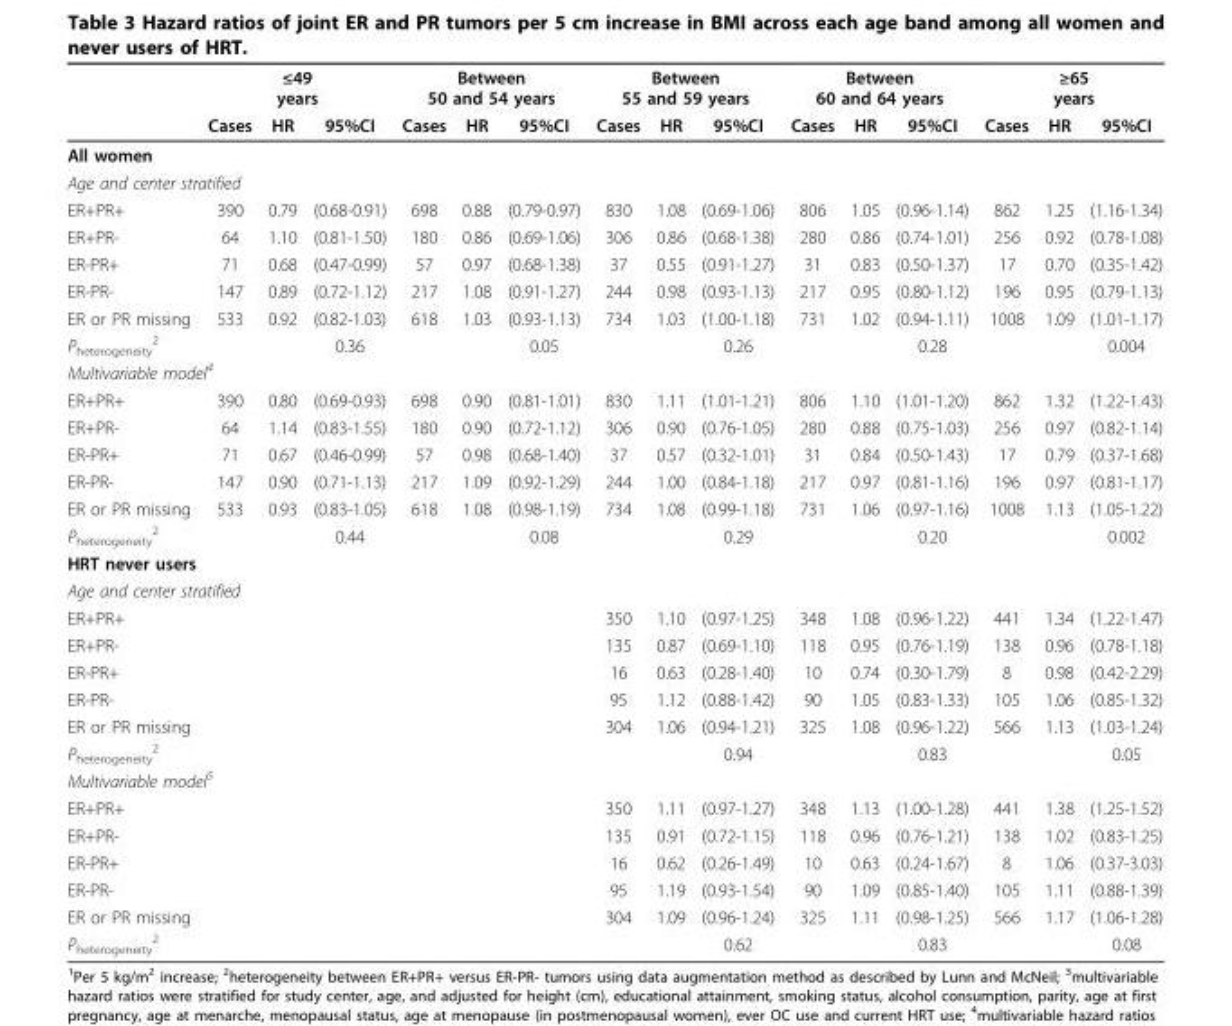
<table><thead><tr><td rowspan="2"></td><td colspan="3">≤49 years</td><td colspan="3">Between 50 and 54 years</td><td colspan="3">Between 55 and 59 years</td><td colspan="3">Between 60 and 64 years</td><td colspan="3">≥65 years</td></tr><tr><td>Cases</td><td>HR</td><td>95%CI</td><td>Cases</td><td>HR</td><td>95%CI</td><td>Cases</td><td>HR</td><td>95%CI</td><td>Cases</td><td>HR</td><td>95%CI</td><td>Cases</td><td>HR</td><td>95%CI</td></tr></thead><tbody><tr><td colspan="16">All women</td></tr><tr><td colspan="16">Age and center stratified</td></tr><tr><td>ER+PR+</td><td>390</td><td>0.79</td><td>(0.68-0.91)</td><td>698</td><td>0.88</td><td>(0.79-0.97)</td><td>830</td><td>1.08</td><td>(0.69-1.06)</td><td>806</td><td>1.05</td><td>(0.96-1.14)</td><td>862</td><td>1.25</td><td>(1.16-1.34)</td></tr><tr><td>ER+PR-</td><td>64</td><td>1.10</td><td>(0.81-1.50)</td><td>180</td><td>0.86</td><td>(0.69-1.06)</td><td>306</td><td>0.86</td><td>(0.68-1.38)</td><td>280</td><td>0.86</td><td>(0.74-1.01)</td><td>256</td><td>0.92</td><td>(0.78-1.08)</td></tr><tr><td>ER-PR+</td><td>71</td><td>0.68</td><td>(0.47-0.99)</td><td>57</td><td>0.97</td><td>(0.68-1.38)</td><td>37</td><td>0.55</td><td>(0.91-1.27)</td><td>31</td><td>0.83</td><td>(0.50-1.37)</td><td>17</td><td>0.70</td><td>(0.35-1.42)</td></tr><tr><td>ER-PR-</td><td>147</td><td>0.89</td><td>(0.72-1.12)</td><td>217</td><td>1.08</td><td>(0.91-1.27)</td><td>244</td><td>0.98</td><td>(0.93-1.13)</td><td>217</td><td>0.95</td><td>(0.80-1.12)</td><td>196</td><td>0.95</td><td>(0.79-1.13)</td></tr><tr><td>ER or PR missing</td><td>533</td><td>0.92</td><td>(0.82-1.03)</td><td>618</td><td>1.03</td><td>(0.93-1.13)</td><td>734</td><td>1.03</td><td>(1.00-1.18)</td><td>731</td><td>1.02</td><td>(0.94-1.11)</td><td>1008</td><td>1.09</td><td>(1.01-1.17)</td></tr><tr><td>P<sub>heterogeneity</sub> <sup>2</sup></td><td></td><td></td><td>0.36</td><td></td><td></td><td>0.05</td><td></td><td></td><td>0.26</td><td></td><td></td><td>0.28</td><td></td><td></td><td>0.004</td></tr><tr><td colspan="16">Multivariable model<sup>4</sup></td></tr><tr><td>ER+PR+</td><td>390</td><td>0.80</td><td>(0.69-0.93)</td><td>698</td><td>0.90</td><td>(0.81-1.01)</td><td>830</td><td>1.11</td><td>(1.01-1.21)</td><td>806</td><td>1.10</td><td>(1.01-1.20)</td><td>862</td><td>1.32</td><td>(1.22-1.43)</td></tr><tr><td>ER+PR-</td><td>64</td><td>1.14</td><td>(0.83-1.55)</td><td>180</td><td>0.90</td><td>(0.72-1.12)</td><td>306</td><td>0.90</td><td>(0.76-1.05)</td><td>280</td><td>0.88</td><td>(0.75-1.03)</td><td>256</td><td>0.97</td><td>(0.82-1.14)</td></tr><tr><td>ER-PR+</td><td>71</td><td>0.67</td><td>(0.46-0.99)</td><td>57</td><td>0.98</td><td>(0.68-1.40)</td><td>37</td><td>0.57</td><td>(0.32-1.01)</td><td>31</td><td>0.84</td><td>(0.50-1.43)</td><td>17</td><td>0.79</td><td>(0.37-1.68)</td></tr><tr><td>ER-PR-</td><td>147</td><td>0.90</td><td>(0.71-1.13)</td><td>217</td><td>1.09</td><td>(0.92-1.29)</td><td>244</td><td>1.00</td><td>(0.84-1.18)</td><td>217</td><td>0.97</td><td>(0.81-1.16)</td><td>196</td><td>0.97</td><td>(0.81-1.17)</td></tr><tr><td>ER or PR missing</td><td>533</td><td>0.93</td><td>(0.83-1.05)</td><td>618</td><td>1.08</td><td>(0.98-1.19)</td><td>734</td><td>1.08</td><td>(0.99-1.18)</td><td>731</td><td>1.06</td><td>(0.97-1.16)</td><td>1008</td><td>1.13</td><td>(1.05-1.22)</td></tr><tr><td>P<sub>heterogeneity</sub> <sup>2</sup></td><td></td><td></td><td>0.44</td><td></td><td></td><td>0.08</td><td></td><td></td><td>0.29</td><td></td><td></td><td>0.20</td><td></td><td></td><td>0.002</td></tr><tr><td colspan="16">HRT never users</td></tr><tr><td colspan="16">Age and center stratified</td></tr><tr><td>ER+PR+</td><td></td><td></td><td></td><td></td><td></td><td></td><td>350</td><td>1.10</td><td>(0.97-1.25)</td><td>348</td><td>1.08</td><td>(0.96-1.22)</td><td>441</td><td>1.34</td><td>(1.22-1.47)</td></tr><tr><td>ER+PR-</td><td></td><td></td><td></td><td></td><td></td><td></td><td>135</td><td>0.87</td><td>(0.69-1.10)</td><td>118</td><td>0.95</td><td>(0.76-1.19)</td><td>138</td><td>0.96</td><td>(0.78-1.18)</td></tr><tr><td>ER-PR+</td><td></td><td></td><td></td><td></td><td></td><td></td><td>16</td><td>0.63</td><td>(0.28-1.40)</td><td>10</td><td>0.74</td><td>(0.30-1.79)</td><td>8</td><td>0.98</td><td>(0.42-2.29)</td></tr><tr><td>ER-PR-</td><td></td><td></td><td></td><td></td><td></td><td></td><td>95</td><td>1.12</td><td>(0.88-1.42)</td><td>90</td><td>1.05</td><td>(0.83-1.33)</td><td>105</td><td>1.06</td><td>(0.85-1.32)</td></tr><tr><td>ER or PR missing</td><td></td><td></td><td></td><td></td><td></td><td></td><td>304</td><td>1.06</td><td>(0.94-1.21)</td><td>325</td><td>1.08</td><td>(0.96-1.22)</td><td>566</td><td>1.13</td><td>(1.03-1.24)</td></tr><tr><td>P<sub>heterogeneity</sub> <sup>2</sup></td><td></td><td></td><td></td><td></td><td></td><td></td><td></td><td></td><td>0.94</td><td></td><td></td><td>0.83</td><td></td><td></td><td>0.05</td></tr><tr><td colspan="16">Multivariable model<sup>5</sup></td></tr><tr><td>ER+PR+</td><td></td><td></td><td></td><td></td><td></td><td></td><td>350</td><td>1.11</td><td>(0.97-1.27)</td><td>348</td><td>1.13</td><td>(1.00-1.28)</td><td>441</td><td>1.38</td><td>(1.25-1.52)</td></tr><tr><td>ER+PR-</td><td></td><td></td><td></td><td></td><td></td><td></td><td>135</td><td>0.91</td><td>(0.72-1.15)</td><td>118</td><td>0.96</td><td>(0.76-1.21)</td><td>138</td><td>1.02</td><td>(0.83-1.25)</td></tr><tr><td>ER-PR+</td><td></td><td></td><td></td><td></td><td></td><td></td><td>16</td><td>0.62</td><td>(0.26-1.49)</td><td>10</td><td>0.63</td><td>(0.24-1.67)</td><td>8</td><td>1.06</td><td>(0.37-3.03)</td></tr><tr><td>ER-PR-</td><td></td><td></td><td></td><td></td><td></td><td></td><td>95</td><td>1.19</td><td>(0.93-1.54)</td><td>90</td><td>1.09</td><td>(0.85-1.40)</td><td>105</td><td>1.11</td><td>(0.88-1.39)</td></tr><tr><td>ER or PR missing</td><td></td><td></td><td></td><td></td><td></td><td></td><td>304</td><td>1.09</td><td>(0.96-1.24)</td><td>325</td><td>1.11</td><td>(0.98-1.25)</td><td>566</td><td>1.17</td><td>(1.06-1.28)</td></tr><tr><td>P<sub>heterogeneity</sub> <sup>2</sup></td><td></td><td></td><td></td><td></td><td></td><td></td><td></td><td></td><td>0.62</td><td></td><td></td><td>0.83</td><td></td><td></td><td>0.08</td></tr></tbody></table>